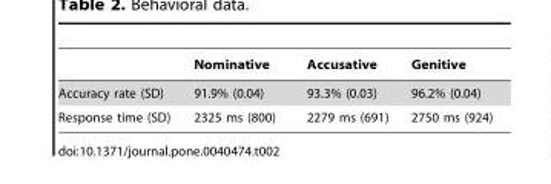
<table><thead><tr><td></td><td>Nominative</td><td>Accusative</td><td>Genitive</td></tr></thead><tbody><tr><td>Accuracy rate (SD)</td><td>91.9% (0.04)</td><td>93.3% (0.03)</td><td>96.2% (0.04)</td></tr><tr><td>Response time (SD)</td><td>2325 ms (800)</td><td>2279 ms (691)</td><td>2750 ms (924)</td></tr></tbody></table>